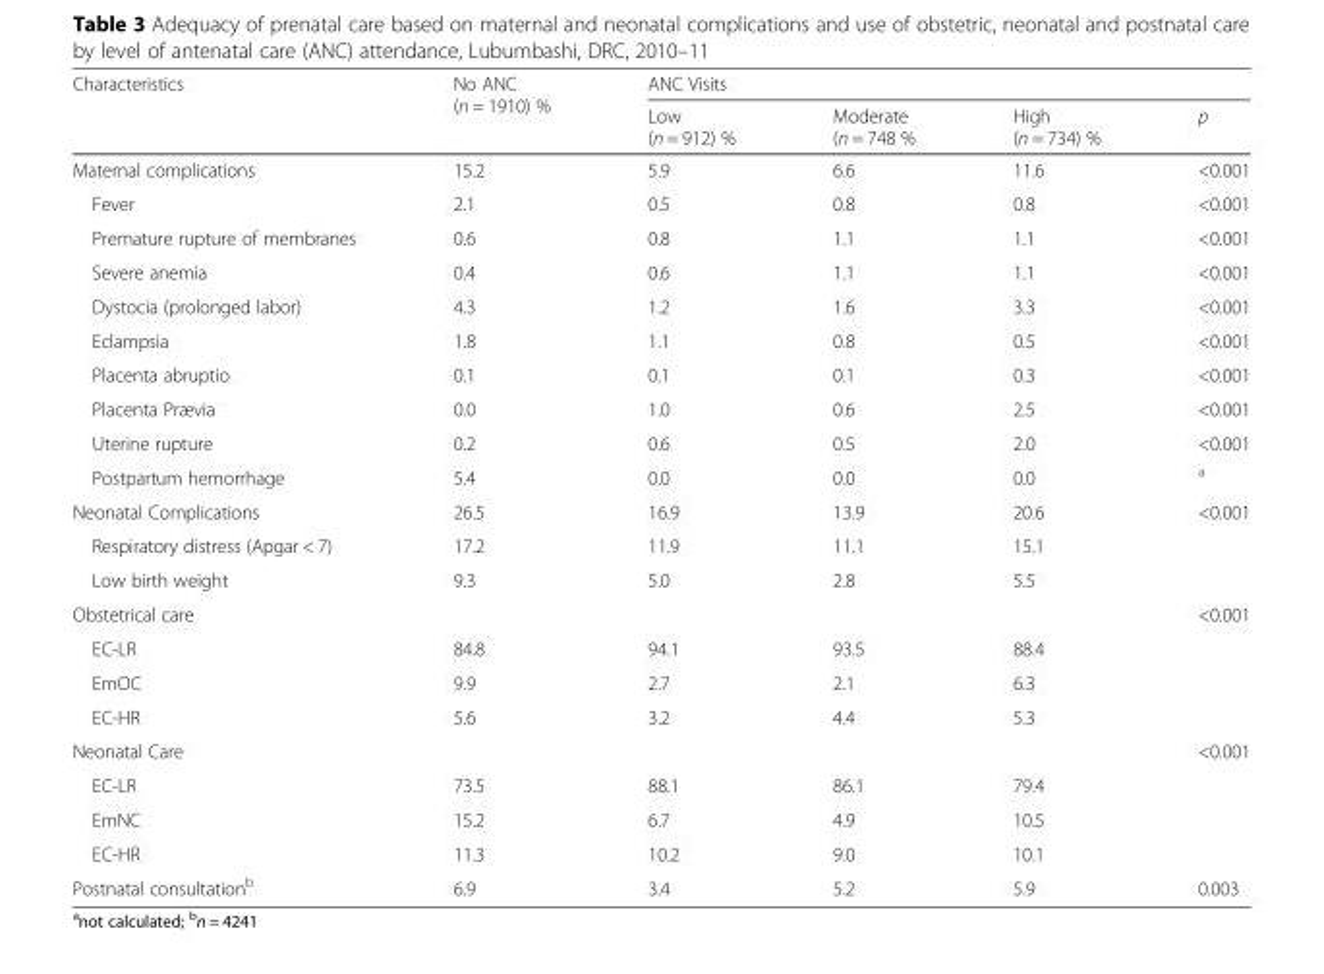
<table><thead><tr><td rowspan="2">Characteristics</td><td rowspan="2">No ANC (n = 1910) %</td><td colspan="4">ANC Visits</td></tr><tr><td>Low (n = 912) %</td><td>Moderate (n = 748 %</td><td>High (n = 734) %</td><td>p</td></tr></thead><tbody><tr><td>Maternal complications</td><td>15.2</td><td>5.9</td><td>6.6</td><td>11.6</td><td>&lt;0.001</td></tr><tr><td>Fever</td><td>2.1</td><td>0.5</td><td>0.8</td><td>0.8</td><td>&lt;0.001</td></tr><tr><td>Premature rupture of membranes</td><td>0.6</td><td>0.8</td><td>1.1</td><td>1.1</td><td>&lt;0.001</td></tr><tr><td>Severe anemia</td><td>0.4</td><td>0.6</td><td>1.1</td><td>1.1</td><td>&lt;0.001</td></tr><tr><td>Dystocia (prolonged labor)</td><td>4.3</td><td>1.2</td><td>1.6</td><td>3.3</td><td>&lt;0.001</td></tr><tr><td>Eclampsia</td><td>1.8</td><td>1.1</td><td>0.8</td><td>0.5</td><td>&lt;0.001</td></tr><tr><td>Placenta abruptio</td><td>0.1</td><td>0.1</td><td>0.1</td><td>0.3</td><td>&lt;0.001</td></tr><tr><td>Placenta Prævia</td><td>0.0</td><td>1.0</td><td>0.6</td><td>2.5</td><td>&lt;0.001</td></tr><tr><td>Uterine rupture</td><td>0.2</td><td>0.6</td><td>0.5</td><td>2.0</td><td>&lt;0.001</td></tr><tr><td>Postpartum hemorrhage</td><td>5.4</td><td>0.0</td><td>0.0</td><td>0.0</td><td><sup>a</sup></td></tr><tr><td>Neonatal Complications</td><td>26.5</td><td>16.9</td><td>13.9</td><td>20.6</td><td>&lt;0.001</td></tr><tr><td>Respiratory distress (Apgar &lt; 7)</td><td>17.2</td><td>11.9</td><td>11.1</td><td>15.1</td><td></td></tr><tr><td>Low birth weight</td><td>9.3</td><td>5.0</td><td>2.8</td><td>5.5</td><td></td></tr><tr><td>Obstetrical care</td><td></td><td></td><td></td><td></td><td>&lt;0.001</td></tr><tr><td>EC-LR</td><td>84.8</td><td>94.1</td><td>93.5</td><td>88.4</td><td></td></tr><tr><td>EmOC</td><td>9.9</td><td>2.7</td><td>2.1</td><td>6.3</td><td></td></tr><tr><td>EC-HR</td><td>5.6</td><td>3.2</td><td>4.4</td><td>5.3</td><td></td></tr><tr><td>Neonatal Care</td><td></td><td></td><td></td><td></td><td>&lt;0.001</td></tr><tr><td>EC-LR</td><td>73.5</td><td>88.1</td><td>86.1</td><td>79.4</td><td></td></tr><tr><td>EmNC</td><td>15.2</td><td>6.7</td><td>4.9</td><td>10.5</td><td></td></tr><tr><td>EC-HR</td><td>11.3</td><td>10.2</td><td>9.0</td><td>10.1</td><td></td></tr><tr><td>Postnatal consultation<sup>b</sup></td><td>6.9</td><td>3.4</td><td>5.2</td><td>5.9</td><td>0.003</td></tr></tbody></table>